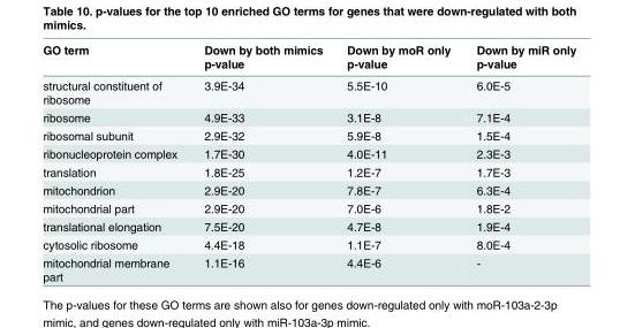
<table><thead><tr><td>GO term</td><td>Down by both mimics p-value</td><td>Down by moR only p-value</td><td>Down by miR only p-value</td></tr></thead><tbody><tr><td>structural constituent of ribosome</td><td>3.9E-34</td><td>5.5E-10</td><td>6.0E-5</td></tr><tr><td>ribosome</td><td>4.9E-33</td><td>3.1E-8</td><td>7.1E-4</td></tr><tr><td>ribosomal subunit</td><td>2.9E-32</td><td>5.9E-8</td><td>1.5E-4</td></tr><tr><td>ribonucleoprotein complex</td><td>1.7E-30</td><td>4.0E-11</td><td>2.3E-3</td></tr><tr><td>translation</td><td>1.8E-25</td><td>1.2E-7</td><td>1.7E-3</td></tr><tr><td>mitochondrion</td><td>2.9E-20</td><td>7.8E-7</td><td>6.3E-4</td></tr><tr><td>mitochondrial part</td><td>2.9E-20</td><td>7.0E-6</td><td>1.8E-2</td></tr><tr><td>translational elongation</td><td>7.5E-20</td><td>4.7E-8</td><td>1.9E-4</td></tr><tr><td>cytosolic ribosome</td><td>4.4E-18</td><td>1.1E-7</td><td>8.0E-4</td></tr><tr><td>mitochondrial membrane part</td><td>1.1E-16</td><td>4.4E-6</td><td>-</td></tr></tbody></table>